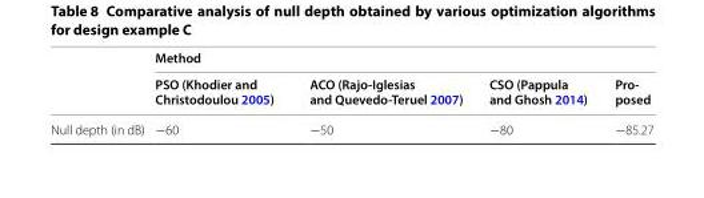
<table><thead><tr><td rowspan="2"></td><td colspan="4">Method</td></tr><tr><td>PSO (Khodier and Christodoulou 2005)</td><td>ACO (Rajo-Iglesias and Quevedo-Teruel 2007)</td><td>CSO (Pappula and Ghosh 2014)</td><td>Pro- posed</td></tr></thead><tbody><tr><td>Null depth (in dB)</td><td>−60</td><td>−50</td><td>−80</td><td>−85.27</td></tr></tbody></table>